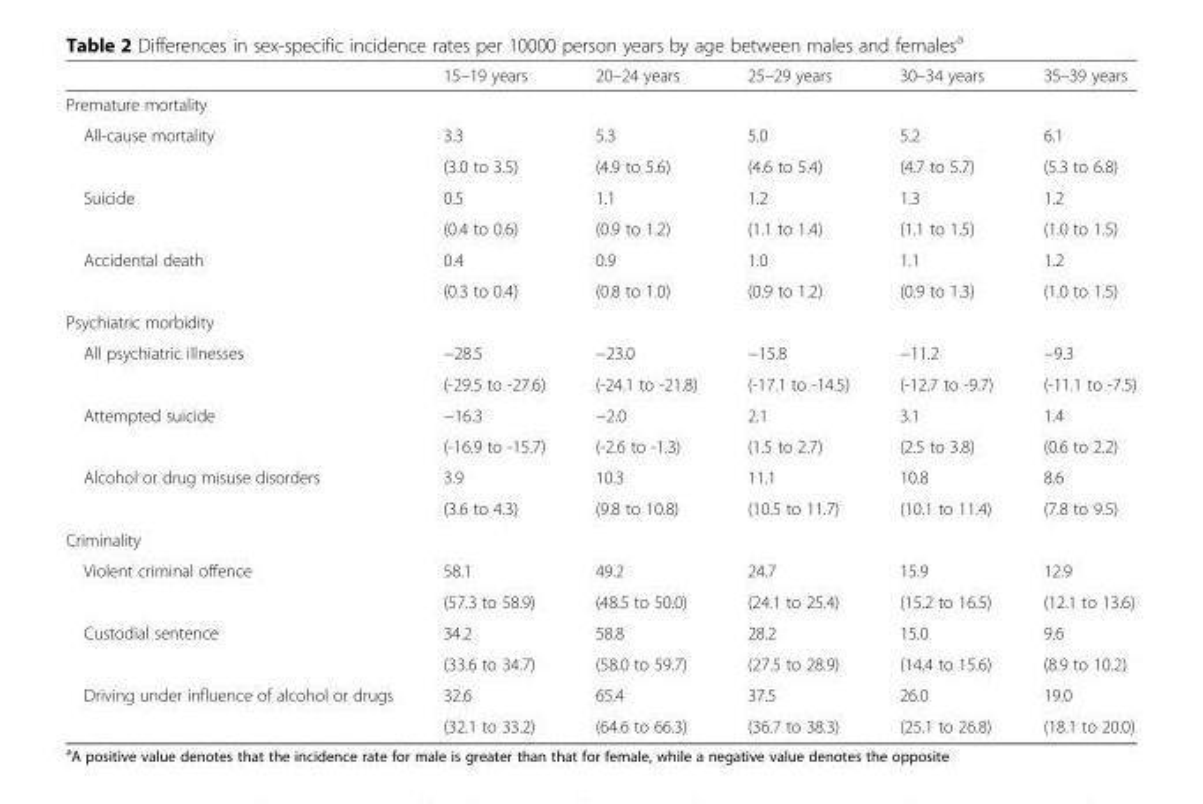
<table><thead><tr><td></td><td>15–19 years</td><td>20–24 years</td><td>25–29 years</td><td>30–34 years</td><td>35–39 years</td></tr></thead><tbody><tr><td colspan="6">Premature mortality</td></tr><tr><td rowspan="2">All-cause mortality</td><td>3.3</td><td>5.3</td><td>5.0</td><td>5.2</td><td>6.1</td></tr><tr><td>(3.0 to 3.5)</td><td>(4.9 to 5.6)</td><td>(4.6 to 5.4)</td><td>(4.7 to 5.7)</td><td>(5.3 to 6.8)</td></tr><tr><td rowspan="2">Suicide</td><td>0.5</td><td>1.1</td><td>1.2</td><td>1.3</td><td>1.2</td></tr><tr><td>(0.4 to 0.6)</td><td>(0.9 to 1.2)</td><td>(1.1 to 1.4)</td><td>(1.1 to 1.5)</td><td>(1.0 to 1.5)</td></tr><tr><td rowspan="2">Accidental death</td><td>0.4</td><td>0.9</td><td>1.0</td><td>1.1</td><td>1.2</td></tr><tr><td>(0.3 to 0.4)</td><td>(0.8 to 1.0)</td><td>(0.9 to 1.2)</td><td>(0.9 to 1.3)</td><td>(1.0 to 1.5)</td></tr><tr><td colspan="6">Psychiatric morbidity</td></tr><tr><td rowspan="2">All psychiatric illnesses</td><td>−28.5</td><td>−23.0</td><td>−15.8</td><td>−11.2</td><td>−9.3</td></tr><tr><td>(-29.5 to -27.6)</td><td>(-24.1 to -21.8)</td><td>(-17.1 to -14.5)</td><td>(-12.7 to -9.7)</td><td>(-11.1 to -7.5)</td></tr><tr><td rowspan="2">Attempted suicide</td><td>−16.3</td><td>−2.0</td><td>2.1</td><td>3.1</td><td>1.4</td></tr><tr><td>(-16.9 to -15.7)</td><td>(-2.6 to -1.3)</td><td>(1.5 to 2.7)</td><td>(2.5 to 3.8)</td><td>(0.6 to 2.2)</td></tr><tr><td rowspan="2">Alcohol or drug misuse disorders</td><td>3.9</td><td>10.3</td><td>11.1</td><td>10.8</td><td>8.6</td></tr><tr><td>(3.6 to 4.3)</td><td>(9.8 to 10.8)</td><td>(10.5 to 11.7)</td><td>(10.1 to 11.4)</td><td>(7.8 to 9.5)</td></tr><tr><td colspan="6">Criminality</td></tr><tr><td rowspan="2">Violent criminal offence</td><td>58.1</td><td>49.2</td><td>24.7</td><td>15.9</td><td>12.9</td></tr><tr><td>(57.3 to 58.9)</td><td>(48.5 to 50.0)</td><td>(24.1 to 25.4)</td><td>(15.2 to 16.5)</td><td>(12.1 to 13.6)</td></tr><tr><td rowspan="2">Custodial sentence</td><td>34.2</td><td>58.8</td><td>28.2</td><td>15.0</td><td>9.6</td></tr><tr><td>(33.6 to 34.7)</td><td>(58.0 to 59.7)</td><td>(27.5 to 28.9)</td><td>(14.4 to 15.6)</td><td>(8.9 to 10.2)</td></tr><tr><td rowspan="2">Driving under influence of alcohol or drugs</td><td>32.6</td><td>65.4</td><td>37.5</td><td>26.0</td><td>19.0</td></tr><tr><td>(32.1 to 33.2)</td><td>(64.6 to 66.3)</td><td>(36.7 to 38.3)</td><td>(25.1 to 26.8)</td><td>(18.1 to 20.0)</td></tr></tbody></table>